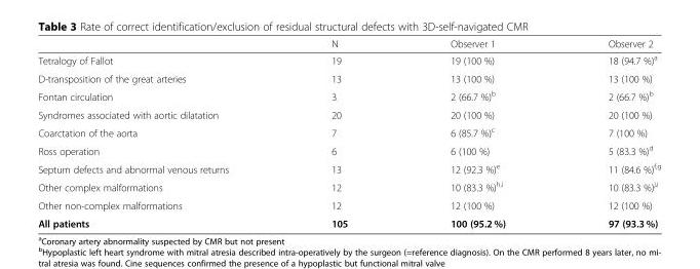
<table><thead><tr><td></td><td>N</td><td>Observer 1</td><td>Observer 2</td></tr></thead><tbody><tr><td>Tetralogy of Fallot</td><td>19</td><td>19 (100 %)</td><td>18 (94.7 %)<sup>a</sup></td></tr><tr><td>D-transposition of the great arteries</td><td>13</td><td>13 (100 %)</td><td>13 (100 %)</td></tr><tr><td>Fontan circulation</td><td>3</td><td>2 (66.7 %)<sup>b</sup></td><td>2 (66.7 %)<sup>b</sup></td></tr><tr><td>Syndromes associated with aortic dilatation</td><td>20</td><td>20 (100 %)</td><td>20 (100 %)</td></tr><tr><td>Coarctation of the aorta</td><td>7</td><td>6 (85.7 %)<sup>c</sup></td><td>7 (100 %)</td></tr><tr><td>Ross operation</td><td>6</td><td>6 (100 %)</td><td>5 (83.3 %)<sup>d</sup></td></tr><tr><td>Septum defects and abnormal venous returns</td><td>13</td><td>12 (92.3 %)<sup>e</sup></td><td>11 (84.6 %)<sup>f,g</sup></td></tr><tr><td>Other complex malformations</td><td>12</td><td>10 (83.3 %)<sup>h,i</sup></td><td>10 (83.3 %)<sup>j,i</sup></td></tr><tr><td>Other non-complex malformations</td><td>12</td><td>12 (100 %)</td><td>12 (100 %)</td></tr><tr><td>All patients</td><td>105</td><td>100 (95.2 %)</td><td>97 (93.3 %)</td></tr></tbody></table>